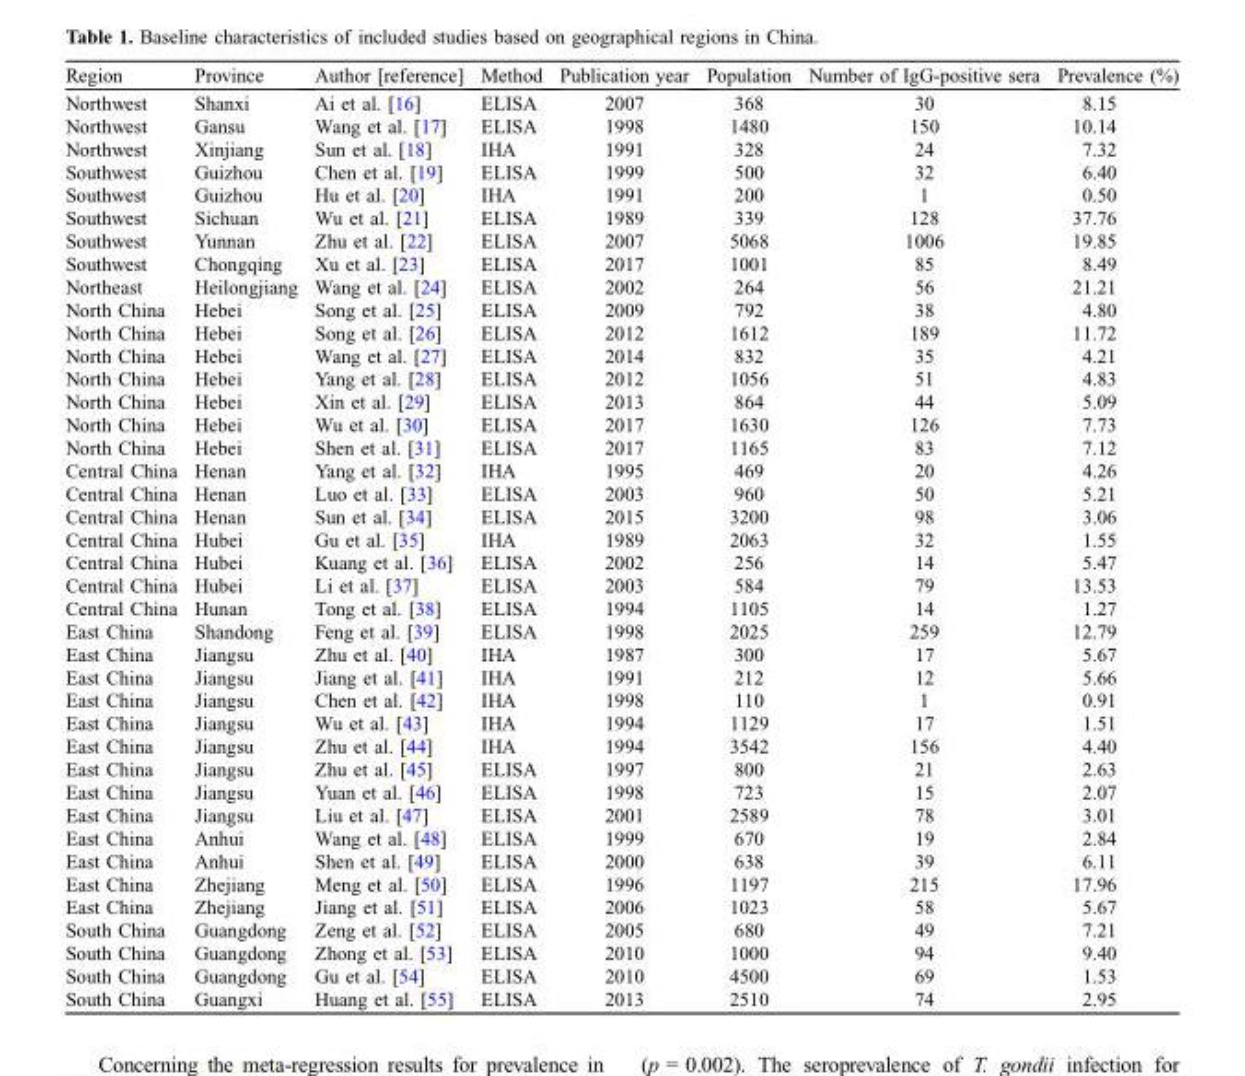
<table><thead><tr><td>Region</td><td>Province</td><td>Author [reference]</td><td>Method</td><td>Publication year</td><td>Population</td><td>Number of IgG-positive sera</td><td>Prevalence (%)</td></tr></thead><tbody><tr><td>Northwest</td><td>Shanxi</td><td>Ai et al. [16]</td><td>ELISA</td><td>2007</td><td>368</td><td>30</td><td>8.15</td></tr><tr><td>Northwest</td><td>Gansu</td><td>Wang et al. [17]</td><td>ELISA</td><td>1998</td><td>1480</td><td>150</td><td>10.14</td></tr><tr><td>Northwest</td><td>Xinjiang</td><td>Sun et al. [18]</td><td>IHA</td><td>1991</td><td>328</td><td>24</td><td>7.32</td></tr><tr><td>Southwest</td><td>Guizhou</td><td>Chen et al. [19]</td><td>ELISA</td><td>1999</td><td>500</td><td>32</td><td>6.40</td></tr><tr><td>Southwest</td><td>Guizhou</td><td>Hu et al. [20]</td><td>IHA</td><td>1991</td><td>200</td><td>1</td><td>0.50</td></tr><tr><td>Southwest</td><td>Sichuan</td><td>Wu et al. [21]</td><td>ELISA</td><td>1989</td><td>339</td><td>128</td><td>37.76</td></tr><tr><td>Southwest</td><td>Yunnan</td><td>Zhu et al. [22]</td><td>ELISA</td><td>2007</td><td>5068</td><td>1006</td><td>19.85</td></tr><tr><td>Southwest</td><td>Chongqing</td><td>Xu et al. [23]</td><td>ELISA</td><td>2017</td><td>1001</td><td>85</td><td>8.49</td></tr><tr><td>Northeast</td><td>Heilongjiang</td><td>Wang et al. [24]</td><td>ELISA</td><td>2002</td><td>264</td><td>56</td><td>21.21</td></tr><tr><td>North China</td><td>Hebei</td><td>Song et al. [25]</td><td>ELISA</td><td>2009</td><td>792</td><td>38</td><td>4.80</td></tr><tr><td>North China</td><td>Hebei</td><td>Song et al. [26]</td><td>ELISA</td><td>2012</td><td>1612</td><td>189</td><td>11.72</td></tr><tr><td>North China</td><td>Hebei</td><td>Wang et al. [27]</td><td>ELISA</td><td>2014</td><td>832</td><td>35</td><td>4.21</td></tr><tr><td>North China</td><td>Hebei</td><td>Yang et al. [28]</td><td>ELISA</td><td>2012</td><td>1056</td><td>51</td><td>4.83</td></tr><tr><td>North China</td><td>Hebei</td><td>Xin et al. [29]</td><td>ELISA</td><td>2013</td><td>864</td><td>44</td><td>5.09</td></tr><tr><td>North China</td><td>Hebei</td><td>Wu et al. [30]</td><td>ELISA</td><td>2017</td><td>1630</td><td>126</td><td>7.73</td></tr><tr><td>North China</td><td>Hebei</td><td>Shen et al. [31]</td><td>ELISA</td><td>2017</td><td>1165</td><td>83</td><td>7.12</td></tr><tr><td>Central China</td><td>Henan</td><td>Yang et al. [32]</td><td>IHA</td><td>1995</td><td>469</td><td>20</td><td>4.26</td></tr><tr><td>Central China</td><td>Henan</td><td>Luo et al. [33]</td><td>ELISA</td><td>2003</td><td>960</td><td>50</td><td>5.21</td></tr><tr><td>Central China</td><td>Henan</td><td>Sun et al. [34]</td><td>ELISA</td><td>2015</td><td>3200</td><td>98</td><td>3.06</td></tr><tr><td>Central China</td><td>Hubei</td><td>Gu et al. [35]</td><td>IHA</td><td>1989</td><td>2063</td><td>32</td><td>1.55</td></tr><tr><td>Central China</td><td>Hubei</td><td>Kuang et al. [36]</td><td>ELISA</td><td>2002</td><td>256</td><td>14</td><td>5.47</td></tr><tr><td>Central China</td><td>Hubei</td><td>Li et al. [37]</td><td>ELISA</td><td>2003</td><td>584</td><td>79</td><td>13.53</td></tr><tr><td>Central China</td><td>Hunan</td><td>Tong et al. [38]</td><td>ELISA</td><td>1994</td><td>1105</td><td>14</td><td>1.27</td></tr><tr><td>East China</td><td>Shandong</td><td>Feng et al. [39]</td><td>ELISA</td><td>1998</td><td>2025</td><td>259</td><td>12.79</td></tr><tr><td>East China</td><td>Jiangsu</td><td>Zhu et al. [40]</td><td>IHA</td><td>1987</td><td>300</td><td>17</td><td>5.67</td></tr><tr><td>East China</td><td>Jiangsu</td><td>Jiang et al. [41]</td><td>IHA</td><td>1991</td><td>212</td><td>12</td><td>5.66</td></tr><tr><td>East China</td><td>Jiangsu</td><td>Chen et al. [42]</td><td>IHA</td><td>1998</td><td>110</td><td>1</td><td>0.91</td></tr><tr><td>East China</td><td>Jiangsu</td><td>Wu et al. [43]</td><td>IHA</td><td>1994</td><td>1129</td><td>17</td><td>1.51</td></tr><tr><td>East China</td><td>Jiangsu</td><td>Zhu et al. [44]</td><td>IHA</td><td>1994</td><td>3542</td><td>156</td><td>4.40</td></tr><tr><td>East China</td><td>Jiangsu</td><td>Zhu et al. [45]</td><td>ELISA</td><td>1997</td><td>800</td><td>21</td><td>2.63</td></tr><tr><td>East China</td><td>Jiangsu</td><td>Yuan et al. [46]</td><td>ELISA</td><td>1998</td><td>723</td><td>15</td><td>2.07</td></tr><tr><td>East China</td><td>Jiangsu</td><td>Liu et al. [47]</td><td>ELISA</td><td>2001</td><td>2589</td><td>78</td><td>3.01</td></tr><tr><td>East China</td><td>Anhui</td><td>Wang et al. [48]</td><td>ELISA</td><td>1999</td><td>670</td><td>19</td><td>2.84</td></tr><tr><td>East China</td><td>Anhui</td><td>Shen et al. [49]</td><td>ELISA</td><td>2000</td><td>638</td><td>39</td><td>6.11</td></tr><tr><td>East China</td><td>Zhejiang</td><td>Meng et al. [50]</td><td>ELISA</td><td>1996</td><td>1197</td><td>215</td><td>17.96</td></tr><tr><td>East China</td><td>Zhejiang</td><td>Jiang et al. [51]</td><td>ELISA</td><td>2006</td><td>1023</td><td>58</td><td>5.67</td></tr><tr><td>South China</td><td>Guangdong</td><td>Zeng et al. [52]</td><td>ELISA</td><td>2005</td><td>680</td><td>49</td><td>7.21</td></tr><tr><td>South China</td><td>Guangdong</td><td>Zhong et al. [53]</td><td>ELISA</td><td>2010</td><td>1000</td><td>94</td><td>9.40</td></tr><tr><td>South China</td><td>Guangdong</td><td>Gu et al. [54]</td><td>ELISA</td><td>2010</td><td>4500</td><td>69</td><td>1.53</td></tr><tr><td>South China</td><td>Guangxi</td><td>Huang et al. [55]</td><td>ELISA</td><td>2013</td><td>2510</td><td>74</td><td>2.95</td></tr></tbody></table>